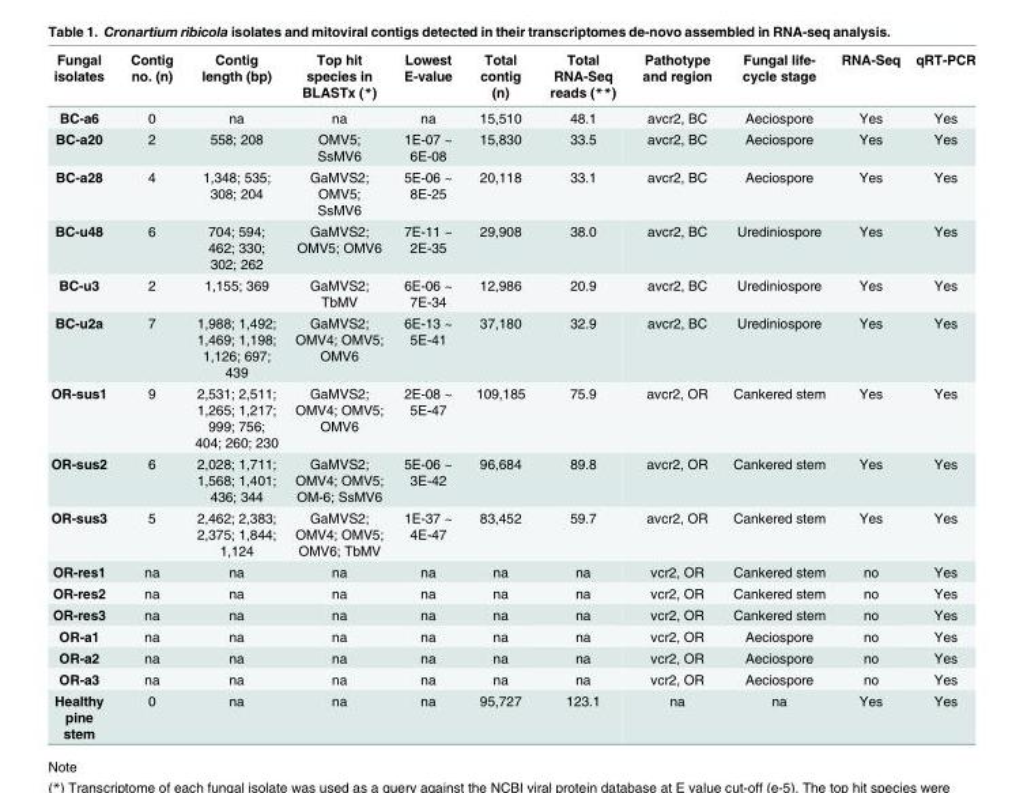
<table><thead><tr><td>Fungal isolates</td><td>Contig no. (n)</td><td>Contig length (bp)</td><td>Top hit species in BLASTx (*)</td><td>Lowest E-value</td><td>Total contig (n)</td><td>Total RNA-Seq reads (**)</td><td>Pathotype and region</td><td>Fungal life- cycle stage</td><td>RNA-Seq</td><td>qRT-PCR</td></tr></thead><tbody><tr><td>BC-a6</td><td>0</td><td>na</td><td>na</td><td>na</td><td>15,510</td><td>48.1</td><td>avcr2, BC</td><td>Aeciospore</td><td>Yes</td><td>Yes</td></tr><tr><td>BC-a20</td><td>2</td><td>558; 208</td><td>OMV5; SsMV6</td><td>1E-07 ~ 6E-08</td><td>15,830</td><td>33.5</td><td>avcr2, BC</td><td>Aeciospore</td><td>Yes</td><td>Yes</td></tr><tr><td>BC-a28</td><td>4</td><td>1,348; 535; 308; 204</td><td>GaMVS2; OMV5; SsMV6</td><td>5E-06 ~ 8E-25</td><td>20,118</td><td>33.1</td><td>avcr2, BC</td><td>Aeciospore</td><td>Yes</td><td>Yes</td></tr><tr><td>BC-u48</td><td>6</td><td>704; 594; 462; 330; 302; 262</td><td>GaMVS2; OMV5; OMV6</td><td>7E-11 ~ 2E-35</td><td>29,908</td><td>38.0</td><td>avcr2, BC</td><td>Urediniospore</td><td>Yes</td><td>Yes</td></tr><tr><td>BC-u3</td><td>2</td><td>1,155; 369</td><td>GaMVS2; TbMV</td><td>6E-06 ~ 7E-34</td><td>12,986</td><td>20.9</td><td>avcr2, BC</td><td>Urediniospore</td><td>Yes</td><td>Yes</td></tr><tr><td>BC-u2a</td><td>7</td><td>1,988; 1,492; 1,469; 1,198; 1,126; 697; 439</td><td>GaMVS2; OMV4; OMV5; OMV6</td><td>6E-13 ~ 5E-41</td><td>37,180</td><td>32.9</td><td>avcr2, BC</td><td>Urediniospore</td><td>Yes</td><td>Yes</td></tr><tr><td>OR-sus1</td><td>9</td><td>2,531; 2,511; 1,265; 1,217; 999; 756; 404; 260; 230</td><td>GaMVS2; OMV4; OMV5; OMV6</td><td>2E-08 ~ 5E-47</td><td>109,185</td><td>75.9</td><td>avcr2, OR</td><td>Cankered stem</td><td>Yes</td><td>Yes</td></tr><tr><td>OR-sus2</td><td>6</td><td>2,028; 1,711; 1,568; 1,401; 436; 344</td><td>GaMVS2; OMV4; OMV5; OM-6; SsMV6</td><td>5E-06 ~ 3E-42</td><td>96,684</td><td>89.8</td><td>avcr2, OR</td><td>Cankered stem</td><td>Yes</td><td>Yes</td></tr><tr><td>OR-sus3</td><td>5</td><td>2,462; 2,383; 2,375; 1,844; 1,124</td><td>GaMVS2; OMV4; OMV5; OMV6; TbMV</td><td>1E-37 ~ 4E-47</td><td>83,452</td><td>59.7</td><td>avcr2, OR</td><td>Cankered stem</td><td>Yes</td><td>Yes</td></tr><tr><td>OR-res1</td><td>na</td><td>na</td><td>na</td><td>na</td><td>na</td><td>na</td><td>vcr2, OR</td><td>Cankered stem</td><td>no</td><td>Yes</td></tr><tr><td>OR-res2</td><td>na</td><td>na</td><td>na</td><td>na</td><td>na</td><td>na</td><td>vcr2, OR</td><td>Cankered stem</td><td>no</td><td>Yes</td></tr><tr><td>OR-res3</td><td>na</td><td>na</td><td>na</td><td>na</td><td>na</td><td>na</td><td>vcr2, OR</td><td>Cankered stem</td><td>no</td><td>Yes</td></tr><tr><td>OR-a1</td><td>na</td><td>na</td><td>na</td><td>na</td><td>na</td><td>na</td><td>vcr2, OR</td><td>Aeciospore</td><td>no</td><td>Yes</td></tr><tr><td>OR-a2</td><td>na</td><td>na</td><td>na</td><td>na</td><td>na</td><td>na</td><td>vcr2, OR</td><td>Aeciospore</td><td>no</td><td>Yes</td></tr><tr><td>OR-a3</td><td>na</td><td>na</td><td>na</td><td>na</td><td>na</td><td>na</td><td>vcr2, OR</td><td>Aeciospore</td><td>no</td><td>Yes</td></tr><tr><td>Healthy pine stem</td><td>0</td><td>na</td><td>na</td><td>na</td><td>95,727</td><td>123.1</td><td>na</td><td>na</td><td>Yes</td><td>Yes</td></tr></tbody></table>